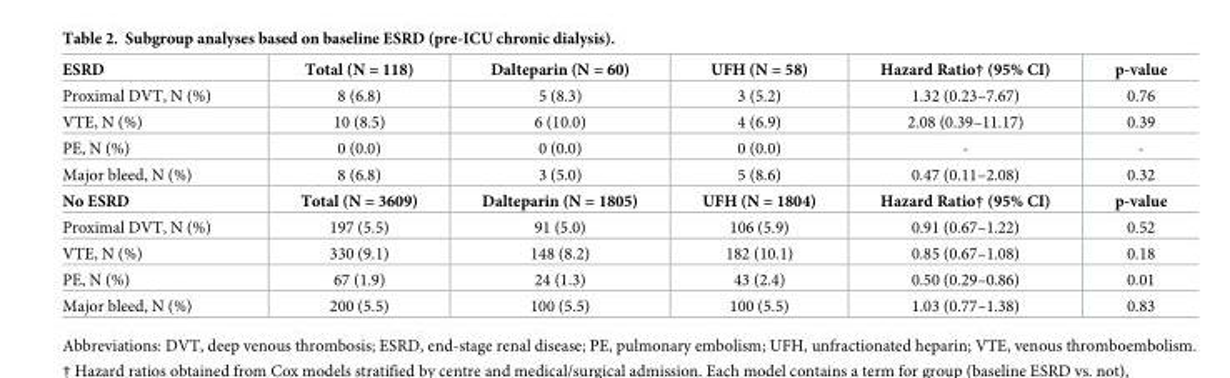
<table><tbody><tr><td>ESRD</td><td>Total (N = 118)</td><td>Dalteparin (N = 60)</td><td>UFH (N = 58)</td><td>Hazard Ratio† (95% CI)</td><td>p-value</td></tr><tr><td>Proximal DVT, N (%)</td><td>8 (6.8)</td><td>5 (8.3)</td><td>3 (5.2)</td><td>1.32 (0.23–7.67)</td><td>0.76</td></tr><tr><td>VTE, N (%)</td><td>10 (8.5)</td><td>6 (10.0)</td><td>4 (6.9)</td><td>2.08 (0.39–11.17)</td><td>0.39</td></tr><tr><td>PE, N (%)</td><td>0 (0.0)</td><td>0 (0.0)</td><td>0 (0.0)</td><td>-</td><td>-</td></tr><tr><td>Major bleed, N (%)</td><td>8 (6.8)</td><td>3 (5.0)</td><td>5 (8.6)</td><td>0.47 (0.11–2.08)</td><td>0.32</td></tr><tr><td>No ESRD</td><td>Total (N = 3609)</td><td>Dalteparin (N = 1805)</td><td>UFH (N = 1804)</td><td>Hazard Ratio† (95% CI)</td><td>p-value</td></tr><tr><td>Proximal DVT, N (%)</td><td>197 (5.5)</td><td>91 (5.0)</td><td>106 (5.9)</td><td>0.91 (0.67–1.22)</td><td>0.52</td></tr><tr><td>VTE, N (%)</td><td>330 (9.1)</td><td>148 (8.2)</td><td>182 (10.1)</td><td>0.85 (0.67–1.08)</td><td>0.18</td></tr><tr><td>PE, N (%)</td><td>67 (1.9)</td><td>24 (1.3)</td><td>43 (2.4)</td><td>0.50 (0.29–0.86)</td><td>0.01</td></tr><tr><td>Major bleed, N (%)</td><td>200 (5.5)</td><td>100 (5.5)</td><td>100 (5.5)</td><td>1.03 (0.77–1.38)</td><td>0.83</td></tr></tbody></table>